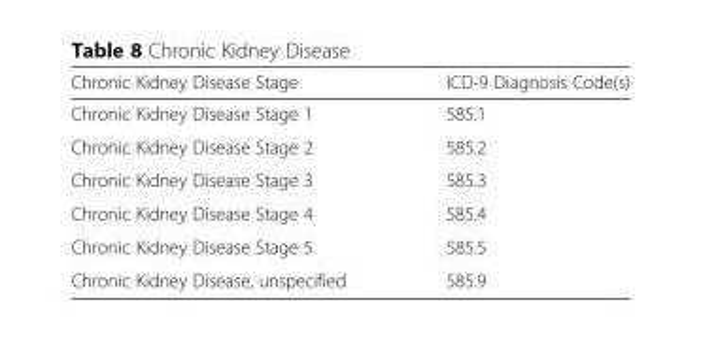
<table><thead><tr><td>Chronic Kidney Disease Stage</td><td>ICD-9 Diagnosis Code(s)</td></tr></thead><tbody><tr><td>Chronic Kidney Disease Stage 1</td><td>585.1</td></tr><tr><td>Chronic Kidney Disease Stage 2</td><td>585.2</td></tr><tr><td>Chronic Kidney Disease Stage 3</td><td>585.3</td></tr><tr><td>Chronic Kidney Disease Stage 4</td><td>585.4</td></tr><tr><td>Chronic Kidney Disease Stage 5</td><td>585.5</td></tr><tr><td>Chronic Kidney Disease, unspecified</td><td>585.9</td></tr></tbody></table>